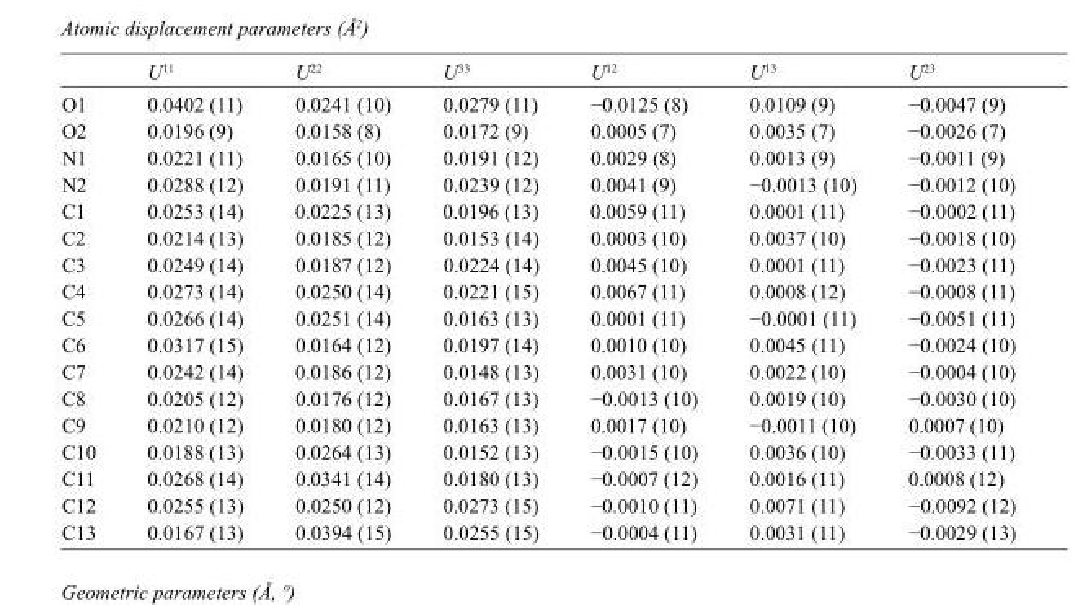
<table><thead><tr><td></td><td>U<sup>11</sup></td><td>U<sup>22</sup></td><td>U<sup>33</sup></td><td>U<sup>12</sup></td><td>U<sup>13</sup></td><td>U<sup>23</sup></td></tr></thead><tbody><tr><td>O1</td><td>0.0402 (11)</td><td>0.0241 (10)</td><td>0.0279 (11)</td><td>−0.0125 (8)</td><td>0.0109 (9)</td><td>−0.0047 (9)</td></tr><tr><td>O2</td><td>0.0196 (9)</td><td>0.0158 (8)</td><td>0.0172 (9)</td><td>0.0005 (7)</td><td>0.0035 (7)</td><td>−0.0026 (7)</td></tr><tr><td>N1</td><td>0.0221 (11)</td><td>0.0165 (10)</td><td>0.0191 (12)</td><td>0.0029 (8)</td><td>0.0013 (9)</td><td>−0.0011 (9)</td></tr><tr><td>N2</td><td>0.0288 (12)</td><td>0.0191 (11)</td><td>0.0239 (12)</td><td>0.0041 (9)</td><td>−0.0013 (10)</td><td>−0.0012 (10)</td></tr><tr><td>C1</td><td>0.0253 (14)</td><td>0.0225 (13)</td><td>0.0196 (13)</td><td>0.0059 (11)</td><td>0.0001 (11)</td><td>−0.0002 (11)</td></tr><tr><td>C2</td><td>0.0214 (13)</td><td>0.0185 (12)</td><td>0.0153 (14)</td><td>0.0003 (10)</td><td>0.0037 (10)</td><td>−0.0018 (10)</td></tr><tr><td>C3</td><td>0.0249 (14)</td><td>0.0187 (12)</td><td>0.0224 (14)</td><td>0.0045 (10)</td><td>0.0001 (11)</td><td>−0.0023 (11)</td></tr><tr><td>C4</td><td>0.0273 (14)</td><td>0.0250 (14)</td><td>0.0221 (15)</td><td>0.0067 (11)</td><td>0.0008 (12)</td><td>−0.0008 (11)</td></tr><tr><td>C5</td><td>0.0266 (14)</td><td>0.0251 (14)</td><td>0.0163 (13)</td><td>0.0001 (11)</td><td>−0.0001 (11)</td><td>−0.0051 (11)</td></tr><tr><td>C6</td><td>0.0317 (15)</td><td>0.0164 (12)</td><td>0.0197 (14)</td><td>0.0010 (10)</td><td>0.0045 (11)</td><td>−0.0024 (10)</td></tr><tr><td>C7</td><td>0.0242 (14)</td><td>0.0186 (12)</td><td>0.0148 (13)</td><td>0.0031 (10)</td><td>0.0022 (10)</td><td>−0.0004 (10)</td></tr><tr><td>C8</td><td>0.0205 (12)</td><td>0.0176 (12)</td><td>0.0167 (13)</td><td>−0.0013 (10)</td><td>0.0019 (10)</td><td>−0.0030 (10)</td></tr><tr><td>C9</td><td>0.0210 (12)</td><td>0.0180 (12)</td><td>0.0163 (13)</td><td>0.0017 (10)</td><td>−0.0011 (10)</td><td>0.0007 (10)</td></tr><tr><td>C10</td><td>0.0188 (13)</td><td>0.0264 (13)</td><td>0.0152 (13)</td><td>−0.0015 (10)</td><td>0.0036 (10)</td><td>−0.0033 (11)</td></tr><tr><td>C11</td><td>0.0268 (14)</td><td>0.0341 (14)</td><td>0.0180 (13)</td><td>−0.0007 (12)</td><td>0.0016 (11)</td><td>0.0008 (12)</td></tr><tr><td>C12</td><td>0.0255 (13)</td><td>0.0250 (12)</td><td>0.0273 (15)</td><td>−0.0010 (11)</td><td>0.0071 (11)</td><td>−0.0092 (12)</td></tr><tr><td>C13</td><td>0.0167 (13)</td><td>0.0394 (15)</td><td>0.0255 (15)</td><td>−0.0004 (11)</td><td>0.0031 (11)</td><td>−0.0029 (13)</td></tr></tbody></table>